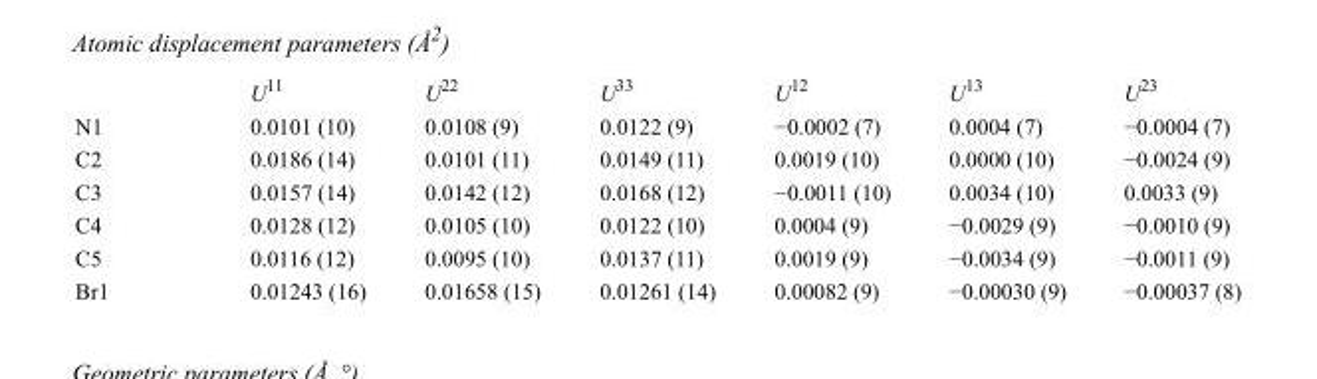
<table><thead><tr><td></td><td>U<sup>11</sup></td><td>U<sup>22</sup></td><td>U<sup>33</sup></td><td>U<sup>12</sup></td><td>U<sup>13</sup></td><td>U<sup>23</sup></td></tr></thead><tbody><tr><td>N1</td><td>0.0101 (10)</td><td>0.0108 (9)</td><td>0.0122 (9)</td><td>−0.0002 (7)</td><td>0.0004 (7)</td><td>−0.0004 (7)</td></tr><tr><td>C2</td><td>0.0186 (14)</td><td>0.0101 (11)</td><td>0.0149 (11)</td><td>0.0019 (10)</td><td>0.0000 (10)</td><td>−0.0024 (9)</td></tr><tr><td>C3</td><td>0.0157 (14)</td><td>0.0142 (12)</td><td>0.0168 (12)</td><td>−0.0011 (10)</td><td>0.0034 (10)</td><td>0.0033 (9)</td></tr><tr><td>C4</td><td>0.0128 (12)</td><td>0.0105 (10)</td><td>0.0122 (10)</td><td>0.0004 (9)</td><td>−0.0029 (9)</td><td>−0.0010 (9)</td></tr><tr><td>C5</td><td>0.0116 (12)</td><td>0.0095 (10)</td><td>0.0137 (11)</td><td>0.0019 (9)</td><td>−0.0034 (9)</td><td>−0.0011 (9)</td></tr><tr><td>Br1</td><td>0.01243 (16)</td><td>0.01658 (15)</td><td>0.01261 (14)</td><td>0.00082 (9)</td><td>−0.00030 (9)</td><td>−0.00037 (8)</td></tr></tbody></table>